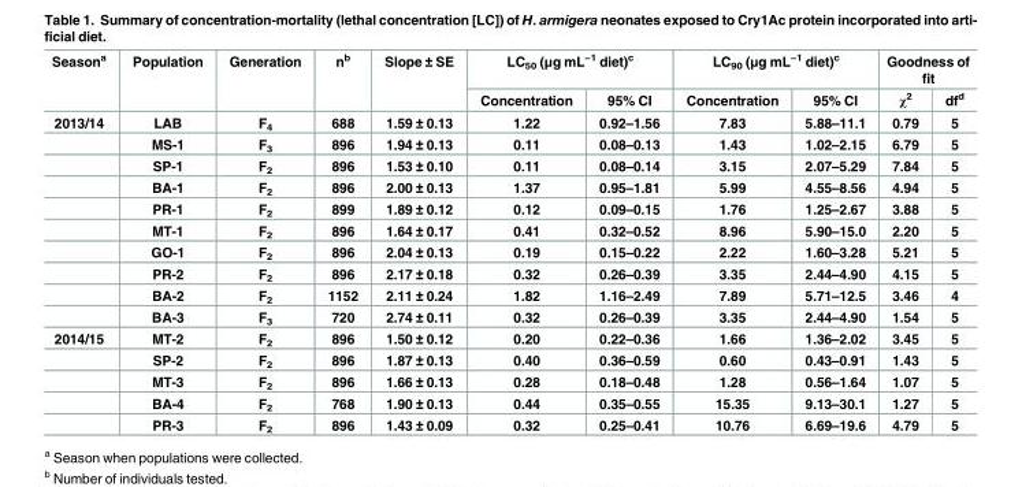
<table><thead><tr><td rowspan="2">Season<sup>a</sup></td><td rowspan="2">Population</td><td rowspan="2">Generation</td><td rowspan="2">n<sup>b</sup></td><td rowspan="2">Slope ± SE</td><td colspan="2">LC<sub>50</sub> (μg mL<sup>−1</sup> diet)<sup>c</sup></td><td colspan="2">LC<sub>90</sub> (μg mL<sup>−1</sup> diet)<sup>c</sup></td><td colspan="2">Goodness of fit</td></tr><tr><td>Concentration</td><td>95% CI</td><td>Concentration</td><td>95% CI</td><td>χ<sup>2</sup></td><td>df<sup>d</sup></td></tr></thead><tbody><tr><td rowspan="10">2013/14</td><td>LAB</td><td>F<sub>4</sub></td><td>688</td><td>1.59 ± 0.13</td><td>1.22</td><td>0.92–1.56</td><td>7.83</td><td>5.88–11.1</td><td>0.79</td><td>5</td></tr><tr><td>MS-1</td><td>F<sub>3</sub></td><td>896</td><td>1.94 ± 0.13</td><td>0.11</td><td>0.08–0.13</td><td>1.43</td><td>1.02–2.15</td><td>6.79</td><td>5</td></tr><tr><td>SP-1</td><td>F<sub>2</sub></td><td>896</td><td>1.53 ± 0.10</td><td>0.11</td><td>0.08–0.14</td><td>3.15</td><td>2.07–5.29</td><td>7.84</td><td>5</td></tr><tr><td>BA-1</td><td>F<sub>2</sub></td><td>896</td><td>2.00 ± 0.13</td><td>1.37</td><td>0.95–1.81</td><td>5.99</td><td>4.55–8.56</td><td>4.94</td><td>5</td></tr><tr><td>PR-1</td><td>F<sub>2</sub></td><td>899</td><td>1.89 ± 0.12</td><td>0.12</td><td>0.09–0.15</td><td>1.76</td><td>1.25–2.67</td><td>3.88</td><td>5</td></tr><tr><td>MT-1</td><td>F<sub>2</sub></td><td>896</td><td>1.64 ± 0.17</td><td>0.41</td><td>0.32–0.52</td><td>8.96</td><td>5.90–15.0</td><td>2.20</td><td>5</td></tr><tr><td>GO-1</td><td>F<sub>2</sub></td><td>896</td><td>2.04 ± 0.13</td><td>0.19</td><td>0.15–0.22</td><td>2.22</td><td>1.60–3.28</td><td>5.21</td><td>5</td></tr><tr><td>PR-2</td><td>F<sub>2</sub></td><td>896</td><td>2.17 ± 0.18</td><td>0.32</td><td>0.26–0.39</td><td>3.35</td><td>2.44–4.90</td><td>4.15</td><td>5</td></tr><tr><td>BA-2</td><td>F<sub>2</sub></td><td>1152</td><td>2.11 ± 0.24</td><td>1.82</td><td>1.16–2.49</td><td>7.89</td><td>5.71–12.5</td><td>3.46</td><td>4</td></tr><tr><td>BA-3</td><td>F<sub>3</sub></td><td>720</td><td>2.74 ± 0.11</td><td>0.32</td><td>0.26–0.39</td><td>3.35</td><td>2.44–4.90</td><td>1.54</td><td>5</td></tr><tr><td rowspan="5">2014/15</td><td>MT-2</td><td>F<sub>2</sub></td><td>896</td><td>1.50 ± 0.12</td><td>0.20</td><td>0.22–0.36</td><td>1.66</td><td>1.36–2.02</td><td>3.45</td><td>5</td></tr><tr><td>SP-2</td><td>F<sub>2</sub></td><td>896</td><td>1.87 ± 0.13</td><td>0.40</td><td>0.36–0.59</td><td>0.60</td><td>0.43–0.91</td><td>1.43</td><td>5</td></tr><tr><td>MT-3</td><td>F<sub>2</sub></td><td>896</td><td>1.66 ± 0.13</td><td>0.28</td><td>0.18–0.48</td><td>1.28</td><td>0.56–1.64</td><td>1.07</td><td>5</td></tr><tr><td>BA-4</td><td>F<sub>2</sub></td><td>768</td><td>1.90 ± 0.13</td><td>0.44</td><td>0.35–0.55</td><td>15.35</td><td>9.13–30.1</td><td>1.27</td><td>5</td></tr><tr><td>PR-3</td><td>F<sub>2</sub></td><td>896</td><td>1.43 ± 0.09</td><td>0.32</td><td>0.25–0.41</td><td>10.76</td><td>6.69–19.6</td><td>4.79</td><td>5</td></tr></tbody></table>